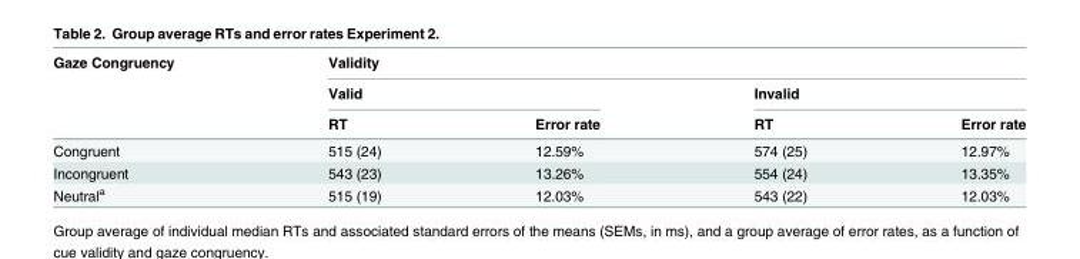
<table><thead><tr><td rowspan="3">Gaze Congruency</td><td colspan="4">Validity</td></tr><tr><td colspan="2">Valid</td><td colspan="2">Invalid</td></tr><tr><td>RT</td><td>Error rate</td><td>RT</td><td>Error rate</td></tr></thead><tbody><tr><td>Congruent</td><td>515 (24)</td><td>12.59%</td><td>574 (25)</td><td>12.97%</td></tr><tr><td>Incongruent</td><td>543 (23)</td><td>13.26%</td><td>554 (24)</td><td>13.35%</td></tr><tr><td>Neutral<sup>a</sup></td><td>515 (19)</td><td>12.03%</td><td>543 (22)</td><td>12.03%</td></tr></tbody></table>